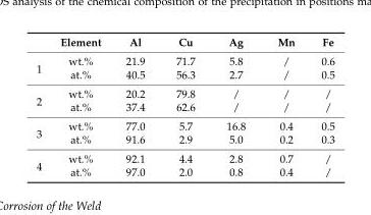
<table><thead><tr><td></td><td>Element</td><td>Al</td><td>Cu</td><td>Ag</td><td>Mn</td><td>Fe</td></tr></thead><tbody><tr><td rowspan="2">1</td><td>wt.%</td><td>21.9</td><td>71.7</td><td>5.8</td><td>/</td><td>0.6</td></tr><tr><td>at.%</td><td>40.5</td><td>56.3</td><td>2.7</td><td>/</td><td>0.5</td></tr><tr><td rowspan="2">2</td><td>wt.%</td><td>20.2</td><td>79.8</td><td>/</td><td>/</td><td>/</td></tr><tr><td>at.%</td><td>37.4</td><td>62.6</td><td>/</td><td>/</td><td>/</td></tr><tr><td rowspan="2">3</td><td>wt.%</td><td>77.0</td><td>5.7</td><td>16.8</td><td>0.4</td><td>0.5</td></tr><tr><td>at.%</td><td>91.6</td><td>2.9</td><td>5.0</td><td>0.2</td><td>0.3</td></tr><tr><td rowspan="2">4</td><td>wt.%</td><td>92.1</td><td>4.4</td><td>2.8</td><td>0.7</td><td>/</td></tr><tr><td>at.%</td><td>97.0</td><td>2.0</td><td>0.8</td><td>0.4</td><td>/</td></tr></tbody></table>